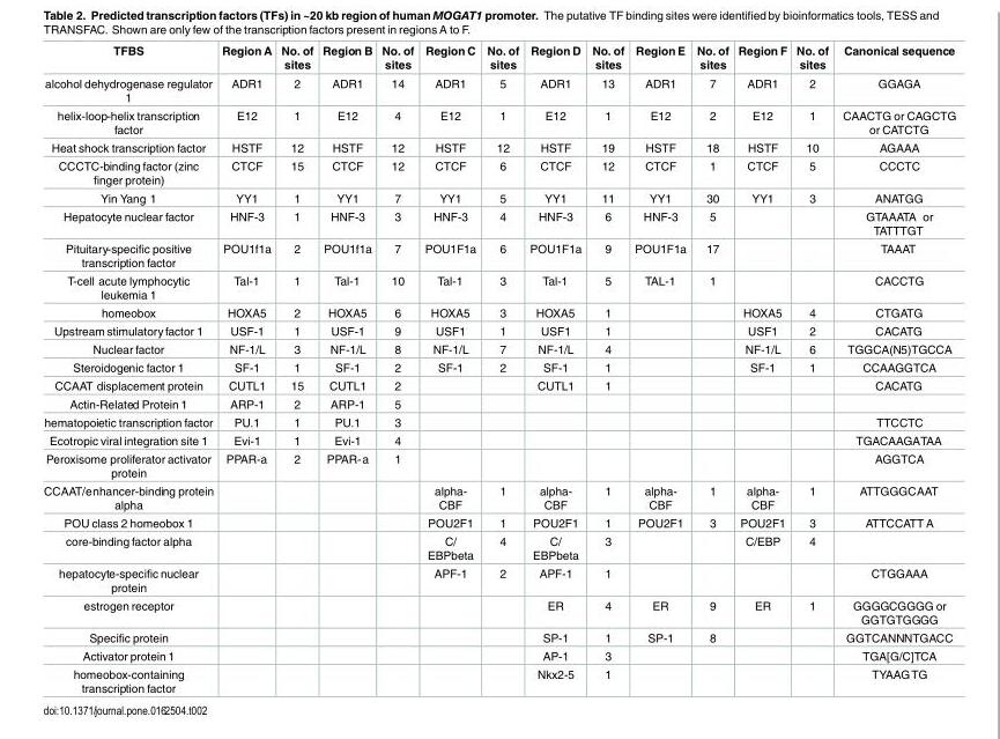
<table><thead><tr><td>TFBS</td><td>Region A</td><td>No. of sites</td><td>Region B</td><td>No. of sites</td><td>Region C</td><td>No. of sites</td><td>Region D</td><td>No. of sites</td><td>Region E</td><td>No. of sites</td><td>Region F</td><td>No. of sites</td><td>Canonical sequence</td></tr></thead><tbody><tr><td>alcohol dehydrogenase regulator 1</td><td>ADR1</td><td>2</td><td>ADR1</td><td>14</td><td>ADR1</td><td>5</td><td>ADR1</td><td>13</td><td>ADR1</td><td>7</td><td>ADR1</td><td>2</td><td>GGAGA</td></tr><tr><td>helix-loop-helix transcription factor</td><td>E12</td><td>1</td><td>E12</td><td>4</td><td>E12</td><td>1</td><td>E12</td><td>1</td><td>E12</td><td>2</td><td>E12</td><td>1</td><td>CAACTG or CAGCTG or CATCTG</td></tr><tr><td>Heat shock transcription factor</td><td>HSTF</td><td>12</td><td>HSTF</td><td>12</td><td>HSTF</td><td>12</td><td>HSTF</td><td>19</td><td>HSTF</td><td>18</td><td>HSTF</td><td>10</td><td>AGAAA</td></tr><tr><td>CCCTC-binding factor (zinc finger protein)</td><td>CTCF</td><td>15</td><td>CTCF</td><td>12</td><td>CTCF</td><td>6</td><td>CTCF</td><td>12</td><td>CTCF</td><td>1</td><td>CTCF</td><td>5</td><td>CCCTC</td></tr><tr><td>Yin Yang 1</td><td>YY1</td><td>1</td><td>YY1</td><td>7</td><td>YY1</td><td>5</td><td>YY1</td><td>11</td><td>YY1</td><td>30</td><td>YY1</td><td>3</td><td>ANATGG</td></tr><tr><td>Hepatocyte nuclear factor</td><td>HNF-3</td><td>1</td><td>HNF-3</td><td>3</td><td>HNF-3</td><td>4</td><td>HNF-3</td><td>6</td><td>HNF-3</td><td>5</td><td></td><td></td><td>GTAAATA or TATTTGT</td></tr><tr><td>Pituitary-specific positive transcription factor</td><td>POU1f1a</td><td>2</td><td>POU1f1a</td><td>7</td><td>POU1F1a</td><td>6</td><td>POU1F1a</td><td>9</td><td>POU1F1a</td><td>17</td><td></td><td></td><td>TAAAT</td></tr><tr><td>T-cell acute lymphocytic leukemia 1</td><td>Tal-1</td><td>1</td><td>Tal-1</td><td>10</td><td>Tal-1</td><td>3</td><td>Tal-1</td><td>5</td><td>TAL-1</td><td>1</td><td></td><td></td><td>CACCTG</td></tr><tr><td>homeobox</td><td>HOXA5</td><td>2</td><td>HOXA5</td><td>6</td><td>HOXA5</td><td>3</td><td>HOXA5</td><td>1</td><td></td><td></td><td>HOXA5</td><td>4</td><td>CTGATG</td></tr><tr><td>Upstream stimulatoryfactor 1</td><td>USF-1</td><td>1</td><td>USF-1</td><td>9</td><td>USF1</td><td>1</td><td>USF1</td><td>1</td><td></td><td></td><td>USF1</td><td>2</td><td>CACATG</td></tr><tr><td>Nuclear factor</td><td>NF-1/L</td><td>3</td><td>NF-1/L</td><td>8</td><td>NF-1/L</td><td>7</td><td>NF-1/L</td><td>4</td><td></td><td></td><td>NF-1/L</td><td>6</td><td>TGGCA(N5)TGCCA</td></tr><tr><td>Steroidogenic factor 1</td><td>SF-1</td><td>1</td><td>SF-1</td><td>2</td><td>SF-1</td><td>2</td><td>SF-1</td><td>1</td><td></td><td></td><td>SF-1</td><td>1</td><td>CCAAGGTCA</td></tr><tr><td>CCAAT displacement protein</td><td>CUTL1</td><td>15</td><td>CUTL1</td><td>2</td><td></td><td></td><td>CUTL1</td><td>1</td><td></td><td></td><td></td><td></td><td>CACATG</td></tr><tr><td>Actin-Related Protein 1</td><td>ARP-1</td><td>2</td><td>ARP-1</td><td>5</td><td></td><td></td><td></td><td></td><td></td><td></td><td></td><td></td><td></td></tr><tr><td>hematopoietic transcription factor</td><td>PU.1</td><td>1</td><td>PU.1</td><td>3</td><td></td><td></td><td></td><td></td><td></td><td></td><td></td><td></td><td>TTCCTC</td></tr><tr><td>Ecotropic viral integration site 1</td><td>Evi-1</td><td>1</td><td>Evi-1</td><td>4</td><td></td><td></td><td></td><td></td><td></td><td></td><td></td><td></td><td>TGACAAGATAA</td></tr><tr><td>Peroxisome proliferator activator protein</td><td>PPAR-a</td><td>2</td><td>PPAR-a</td><td>1</td><td></td><td></td><td></td><td></td><td></td><td></td><td></td><td></td><td>AGGTCA</td></tr><tr><td>CCAAT/enhancer-binding protein alpha</td><td></td><td></td><td></td><td></td><td>alpha- CBF</td><td>1</td><td>alpha- CBF</td><td>1</td><td>alpha- CBF</td><td>1</td><td>alpha- CBF</td><td>1</td><td>ATTGGGCAAT</td></tr><tr><td>POU class 2 homeobox 1</td><td></td><td></td><td></td><td></td><td>POU2F1</td><td>1</td><td>POU2F1</td><td>1</td><td>POU2F1</td><td>3</td><td>POU2F1</td><td>3</td><td>ATTCCATT A</td></tr><tr><td>core-binding factor alpha</td><td></td><td></td><td></td><td></td><td>C/ EBPbeta</td><td>4</td><td>C/ EBPbeta</td><td>3</td><td></td><td></td><td>C/EBP</td><td>4</td><td></td></tr><tr><td>hepatocyte-specific nuclear protein</td><td></td><td></td><td></td><td></td><td>APF-1</td><td>2</td><td>APF-1</td><td>1</td><td></td><td></td><td></td><td></td><td>CTGGAAA</td></tr><tr><td>estrogen receptor</td><td></td><td></td><td></td><td></td><td></td><td></td><td>ER</td><td>4</td><td>ER</td><td>9</td><td>ER</td><td>1</td><td>GGGGCGGGG or GGTGTGGGG</td></tr><tr><td>Specific protein</td><td></td><td></td><td></td><td></td><td></td><td></td><td>SP-1</td><td>1</td><td>SP-1</td><td>8</td><td></td><td></td><td>GGTCANNNTGACC</td></tr><tr><td>Activator protein 1</td><td></td><td></td><td></td><td></td><td></td><td></td><td>AP-1</td><td>3</td><td></td><td></td><td></td><td></td><td>TGA[G/C]TCA</td></tr><tr><td>homeobox-containing transcription factor</td><td></td><td></td><td></td><td></td><td></td><td></td><td>Nkx2-5</td><td>1</td><td></td><td></td><td></td><td></td><td>TYAAGTG</td></tr></tbody></table>